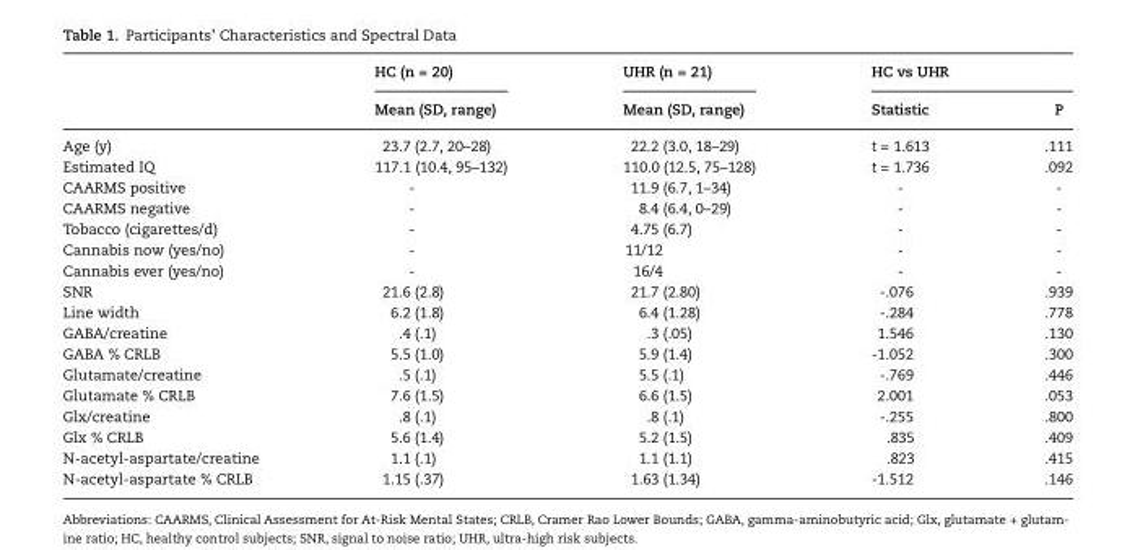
<table><thead><tr><td rowspan="2"></td><td rowspan="2">HC (n = 20) Mean (SD, range)</td><td rowspan="2">UHR (n = 21) Mean (SD, range)</td><td colspan="2">HC vs UHR</td></tr><tr><td>Statistic</td><td>P</td></tr></thead><tbody><tr><td>Age (y)</td><td>23.7 (2.7, 20–28)</td><td>22.2 (3.0, 18–29)</td><td>t = 1.613</td><td>.111</td></tr><tr><td>Estimated IQ</td><td>117.1 (10.4, 95–132)</td><td>110.0 (12.5, 75–128)</td><td>t = 1.736</td><td>.092</td></tr><tr><td>CAARMS positive</td><td>-</td><td>11.9 (6.7, 1–34)</td><td>-</td><td>-</td></tr><tr><td>CAARMS negative</td><td>-</td><td>8.4 (6.4, 0–29)</td><td>-</td><td>-</td></tr><tr><td>Tobacco (cigarettes/d)</td><td>-</td><td>4.75 (6.7)</td><td>-</td><td>-</td></tr><tr><td>Cannabis now (yes/no)</td><td>-</td><td>11/12</td><td>-</td><td>-</td></tr><tr><td>Cannabis ever (yes/no)</td><td>-</td><td>16/4</td><td>-</td><td>-</td></tr><tr><td>SNR</td><td>21.6 (2.8)</td><td>21.7 (2.80)</td><td>-.076</td><td>.939</td></tr><tr><td>Line width</td><td>6.2 (1.8)</td><td>6.4 (1.28)</td><td>-.284</td><td>.778</td></tr><tr><td>GABA/creatine</td><td>.4 (.1)</td><td>.3 (.05)</td><td>1.546</td><td>.130</td></tr><tr><td>GABA % CRLB</td><td>5.5 (1.0)</td><td>5.9 (1.4)</td><td>-1.052</td><td>.300</td></tr><tr><td>Glutamate/creatine</td><td>.5 (.1)</td><td>5.5 (.1)</td><td>-.769</td><td>.446</td></tr><tr><td>Glutamate % CRLB</td><td>7.6 (1.5)</td><td>6.6 (1.5)</td><td>2.001</td><td>.053</td></tr><tr><td>Glx/creatine</td><td>.8 (.1)</td><td>.8 (.1)</td><td>-.255</td><td>.800</td></tr><tr><td>Glx % CRLB</td><td>5.6 (1.4)</td><td>5.2 (1.5)</td><td>.835</td><td>.409</td></tr><tr><td>N-acetyl-aspartate/creatine</td><td>1.1 (.1)</td><td>1.1 (1.1)</td><td>.823</td><td>.415</td></tr><tr><td>N-acetyl-aspartate % CRLB</td><td>1.15 (.37)</td><td>1.63 (1.34)</td><td>-1.512</td><td>.146</td></tr></tbody></table>